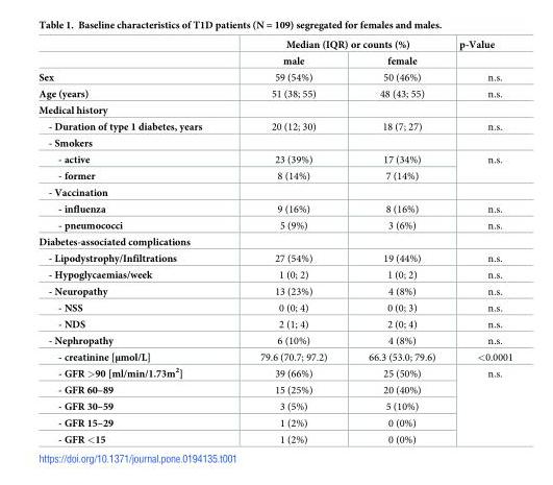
<table><thead><tr><td rowspan="2"></td><td colspan="2">Median (IQR) or counts (%)</td><td rowspan="2">p-Value</td></tr><tr><td>male</td><td>female</td></tr></thead><tbody><tr><td>Sex</td><td>59 (54%)</td><td>50 (46%)</td><td>n.s.</td></tr><tr><td>Age (years)</td><td>51 (38; 55)</td><td>48 (43; 55)</td><td>n.s.</td></tr><tr><td colspan="4">Medical history</td></tr><tr><td>- Duration of type 1 diabetes, years</td><td>20 (12; 30)</td><td>18 (7; 27)</td><td>n.s.</td></tr><tr><td colspan="4">- Smokers</td></tr><tr><td>- active</td><td>23 (39%)</td><td>17 (34%)</td><td rowspan="2">n.s.</td></tr><tr><td>- former</td><td>8 (14%)</td><td>7 (14%)</td></tr><tr><td colspan="4">- Vaccination</td></tr><tr><td>- influenza</td><td>9 (16%)</td><td>8 (16%)</td><td>n.s.</td></tr><tr><td>- pneumococci</td><td>5 (9%)</td><td>3 (6%)</td><td>n.s.</td></tr><tr><td colspan="4">Diabetes-associated complications</td></tr><tr><td>- Lipodystrophy/Infiltrations</td><td>27 (54%)</td><td>19 (44%)</td><td>n.s.</td></tr><tr><td>- Hypoglycaemias/week</td><td>1 (0; 2)</td><td>1 (0; 2)</td><td>n.s.</td></tr><tr><td>- Neuropathy</td><td>13 (23%)</td><td>4 (8%)</td><td>n.s.</td></tr><tr><td>- NSS</td><td>0 (0; 4)</td><td>0 (0; 3)</td><td>n.s.</td></tr><tr><td>- NDS</td><td>2 (1; 4)</td><td>2 (0; 4)</td><td>n.s.</td></tr><tr><td>- Nephropathy</td><td>6 (10%)</td><td>4 (8%)</td><td>n.s.</td></tr><tr><td>- creatinine [μmol/L]</td><td>79.6 (70.7; 97.2)</td><td>66.3 (53.0; 79.6)</td><td>&lt;0.0001</td></tr><tr><td>- GFR &gt;90 [ml/min/1.73m<sup>2</sup>]</td><td>39 (66%)</td><td>25 (50%)</td><td rowspan="5">n.s.</td></tr><tr><td>- GFR 60–89</td><td>15 (25%)</td><td>20 (40%)</td></tr><tr><td>- GFR 30–59</td><td>3 (5%)</td><td>5 (10%)</td></tr><tr><td>- GFR 15–29</td><td>1 (2%)</td><td>0 (0%)</td></tr><tr><td>- GFR &lt;15</td><td>1 (2%)</td><td>0 (0%)</td></tr></tbody></table>